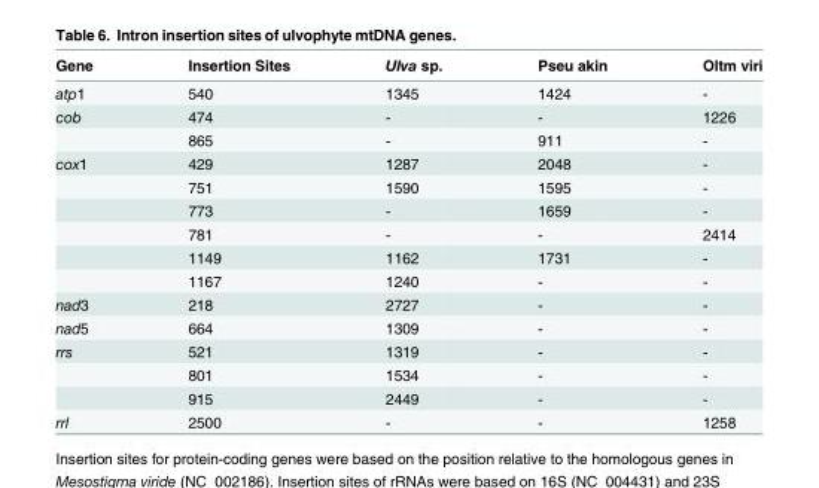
<table><thead><tr><td>Gene</td><td>Insertion Sites</td><td>Ulva sp.</td><td>Pseu akin</td><td>Oltm viri</td></tr></thead><tbody><tr><td>atp1</td><td>540</td><td>1345</td><td>1424</td><td>-</td></tr><tr><td rowspan="2">cob</td><td>474</td><td>-</td><td>-</td><td>1226</td></tr><tr><td>865</td><td>-</td><td>911</td><td>-</td></tr><tr><td rowspan="6">cox1</td><td>429</td><td>1287</td><td>2048</td><td>-</td></tr><tr><td>751</td><td>1590</td><td>1595</td><td>-</td></tr><tr><td>773</td><td>-</td><td>1659</td><td>-</td></tr><tr><td>781</td><td>-</td><td>-</td><td>2414</td></tr><tr><td>1149</td><td>1162</td><td>1731</td><td>-</td></tr><tr><td>1167</td><td>1240</td><td>-</td><td>-</td></tr><tr><td>nad3</td><td>218</td><td>2727</td><td>-</td><td>-</td></tr><tr><td>nad5</td><td>664</td><td>1309</td><td>-</td><td>-</td></tr><tr><td rowspan="3">rrs</td><td>521</td><td>1319</td><td>-</td><td>-</td></tr><tr><td>801</td><td>1534</td><td>-</td><td>-</td></tr><tr><td>915</td><td>2449</td><td>-</td><td>-</td></tr><tr><td>rrl</td><td>2500</td><td>-</td><td>-</td><td>1258</td></tr></tbody></table>